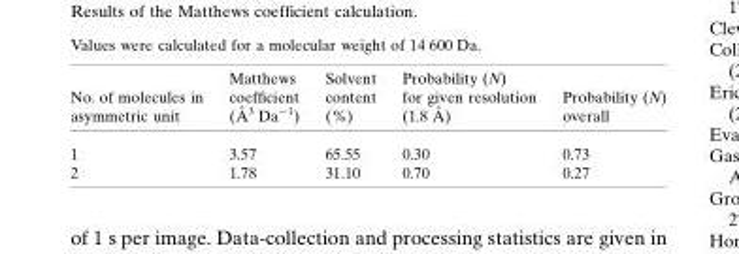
<table><thead><tr><td>No. of molecules in asymmetric unit</td><td>Matthews coefficient (A˚ 3 Da�1)</td><td>Solvent content (%)</td><td>Probability (N) for given resolution (1.8 A˚ )</td><td>Probability (N) overall</td></tr></thead><tbody><tr><td>1</td><td>3.57</td><td>65.55</td><td>0.30</td><td>0.73</td></tr><tr><td>2</td><td>1.78</td><td>31.10</td><td>0.70</td><td>0.27</td></tr></tbody></table>